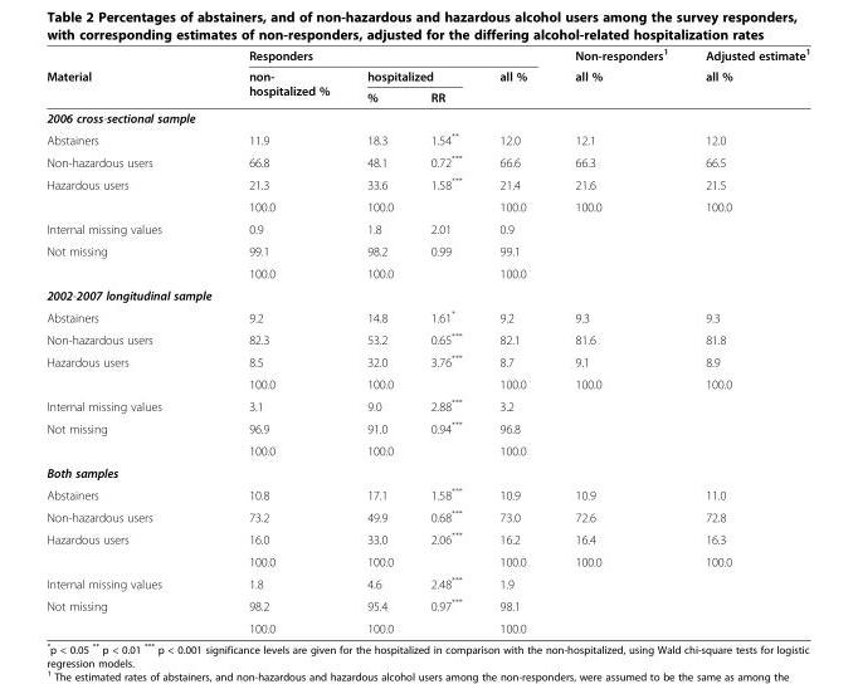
<table><thead><tr><td rowspan="3">Material</td><td colspan="4">Responders</td><td rowspan="3">Non-responders<sup>1</sup> all %</td><td rowspan="3">Adjusted estimate<sup>1</sup> all %</td></tr><tr><td rowspan="2">non- hospitalized %</td><td colspan="2">hospitalized</td><td rowspan="2">all %</td></tr><tr><td>%</td><td>RR</td></tr></thead><tbody><tr><td colspan="7">2006 cross-sectional sample</td></tr><tr><td>Abstainers</td><td>11.9</td><td>18.3</td><td>1.54**</td><td>12.0</td><td>12.1</td><td>12.0</td></tr><tr><td>Non-hazardous users</td><td>66.8</td><td>48.1</td><td>0.72***</td><td>66.6</td><td>66.3</td><td>66.5</td></tr><tr><td rowspan="2">Hazardous users</td><td>21.3</td><td>33.6</td><td>1.58***</td><td>21.4</td><td>21.6</td><td>21.5</td></tr><tr><td>100.0</td><td>100.0</td><td></td><td>100.0</td><td>100.0</td><td>100.0</td></tr><tr><td>Internal missing values</td><td>0.9</td><td>1.8</td><td>2.01</td><td>0.9</td><td></td><td></td></tr><tr><td rowspan="2">Not missing</td><td>99.1</td><td>98.2</td><td>0.99</td><td>99.1</td><td></td><td></td></tr><tr><td>100.0</td><td>100.0</td><td></td><td>100.0</td><td></td><td></td></tr><tr><td colspan="7">2002-2007 longitudinal sample</td></tr><tr><td>Abstainers</td><td>9.2</td><td>14.8</td><td>1.61*</td><td>9.2</td><td>9.3</td><td>9.3</td></tr><tr><td>Non-hazardous users</td><td>82.3</td><td>53.2</td><td>0.65***</td><td>82.1</td><td>81.6</td><td>81.8</td></tr><tr><td rowspan="2">Hazardous users</td><td>8.5</td><td>32.0</td><td>3.76***</td><td>8.7</td><td>9.1</td><td>8.9</td></tr><tr><td>100.0</td><td>100.0</td><td></td><td>100.0</td><td>100.0</td><td>100.0</td></tr><tr><td>Internal missing values</td><td>3.1</td><td>9.0</td><td>2.88***</td><td>3.2</td><td></td><td></td></tr><tr><td rowspan="2">Not missing</td><td>96.9</td><td>91.0</td><td>0.94***</td><td>96.8</td><td></td><td></td></tr><tr><td>100.0</td><td>100.0</td><td></td><td>100.0</td><td></td><td></td></tr><tr><td colspan="7">Both samples</td></tr><tr><td>Abstainers</td><td>10.8</td><td>17.1</td><td>1.58***</td><td>10.9</td><td>10.9</td><td>11.0</td></tr><tr><td>Non-hazardous users</td><td>73.2</td><td>49.9</td><td>0.68***</td><td>73.0</td><td>72.6</td><td>72.8</td></tr><tr><td rowspan="2">Hazardous users</td><td>16.0</td><td>33.0</td><td>2.06***</td><td>16.2</td><td>16.4</td><td>16.3</td></tr><tr><td>100.0</td><td>100.0</td><td></td><td>100.0</td><td>100.0</td><td>100.0</td></tr><tr><td>Internal missing values</td><td>1.8</td><td>4.6</td><td>2.48***</td><td>1.9</td><td></td><td></td></tr><tr><td rowspan="2">Not missing</td><td>98.2</td><td>95.4</td><td>0.97***</td><td>98.1</td><td></td><td></td></tr><tr><td>100.0</td><td>100.0</td><td></td><td>100.0</td><td></td><td></td></tr></tbody></table>